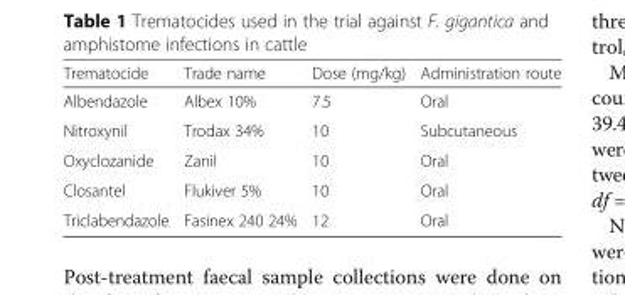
<table><thead><tr><td>Trematocide</td><td>Trade name</td><td>Dose (mg/kg)</td><td>Administration route</td></tr></thead><tbody><tr><td>Albendazole</td><td>Albex 10%</td><td>7.5</td><td>Oral</td></tr><tr><td>Nitroxynil</td><td>Trodax 34%</td><td>10</td><td>Subcutaneous</td></tr><tr><td>Oxyclozanide</td><td>Zanil</td><td>10</td><td>Oral</td></tr><tr><td>Closantel</td><td>Flukiver 5%</td><td>10</td><td>Oral</td></tr><tr><td>Triclabendazole</td><td>Fasinex 240 24%</td><td>12</td><td>Oral</td></tr></tbody></table>